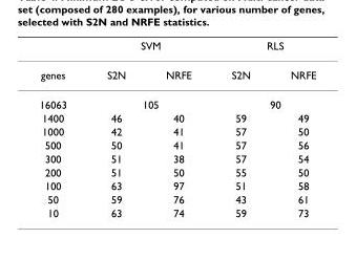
<table><thead><tr><td rowspan="2">genes</td><td colspan="2">SVM</td><td colspan="2">RLS</td></tr><tr><td>S2N</td><td>NRFE</td><td>S2N</td><td>NRFE</td></tr></thead><tbody><tr><td>16063</td><td colspan="2">105</td><td colspan="2">90</td></tr><tr><td>1400</td><td>46</td><td>40</td><td>59</td><td>49</td></tr><tr><td>1000</td><td>42</td><td>41</td><td>57</td><td>50</td></tr><tr><td>500</td><td>50</td><td>41</td><td>57</td><td>56</td></tr><tr><td>300</td><td>51</td><td>38</td><td>57</td><td>54</td></tr><tr><td>200</td><td>51</td><td>50</td><td>55</td><td>50</td></tr><tr><td>100</td><td>63</td><td>97</td><td>51</td><td>58</td></tr><tr><td>50</td><td>59</td><td>76</td><td>43</td><td>61</td></tr><tr><td>10</td><td>63</td><td>74</td><td>59</td><td>73</td></tr></tbody></table>